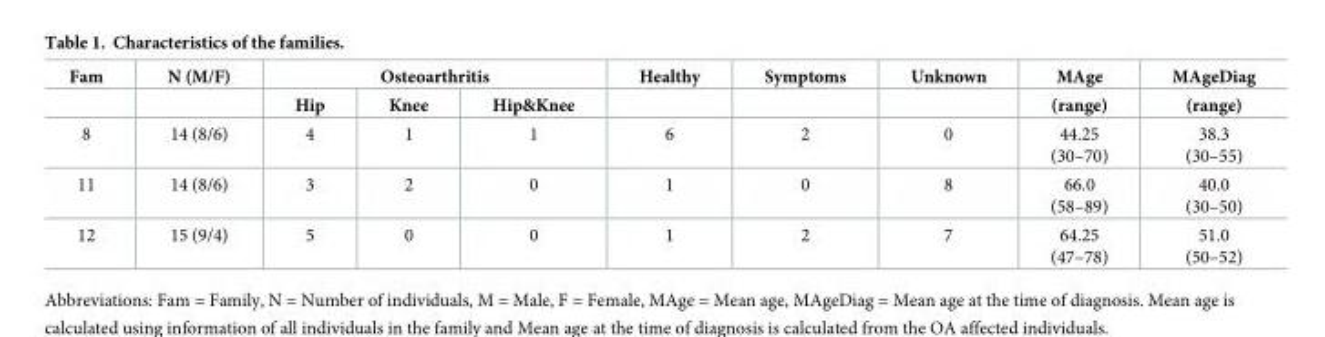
<table><thead><tr><td rowspan="2">Fam</td><td rowspan="2">N (M/F)</td><td colspan="3">Osteoarthritis</td><td rowspan="2">Healthy</td><td rowspan="2">Symptoms</td><td rowspan="2">Unknown</td><td rowspan="2">MAge (range)</td><td rowspan="2">MAgeDiag (range)</td></tr><tr><td>Hip</td><td>Knee</td><td>Hip&amp;Knee</td></tr></thead><tbody><tr><td>8</td><td>14 (8/6)</td><td>4</td><td>1</td><td>1</td><td>6</td><td>2</td><td>0</td><td>44.25 (30–70)</td><td>38.3 (30–55)</td></tr><tr><td>11</td><td>14 (8/6)</td><td>3</td><td>2</td><td>0</td><td>1</td><td>0</td><td>8</td><td>66.0 (58–89)</td><td>40.0 (30–50)</td></tr><tr><td>12</td><td>15 (9/4)</td><td>5</td><td>0</td><td>0</td><td>1</td><td>2</td><td>7</td><td>64.25 (47–78)</td><td>51.0 (50–52)</td></tr></tbody></table>